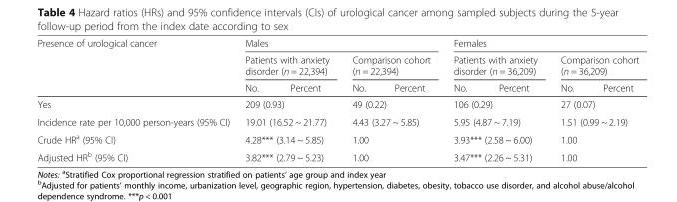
<table><thead><tr><td rowspan="3">Presence of urological cancer</td><td colspan="4">Males</td><td colspan="4">Females</td></tr><tr><td colspan="2">Patients with anxiety disorder (n = 22,394)</td><td colspan="2">Comparison cohort (n = 22,394)</td><td colspan="2">Patients with anxiety disorder (n = 36,209)</td><td colspan="2">Comparison cohort (n = 36,209)</td></tr><tr><td>No.</td><td>Percent</td><td>No.</td><td>Percent</td><td>No.</td><td>Percent</td><td>No.</td><td>Percent</td></tr></thead><tbody><tr><td>Yes</td><td colspan="2">209 (0.93)</td><td colspan="2">49 (0.22)</td><td colspan="2">106 (0.29)</td><td colspan="2">27 (0.07)</td></tr><tr><td>Incidence rate per 10,000 person-years (95% CI)</td><td colspan="2">19.01 (16.52 ~ 21.77)</td><td colspan="2">4.43 (3.27 ~ 5.85)</td><td colspan="2">5.95 (4.87 ~ 7.19)</td><td colspan="2">1.51 (0.99 ~ 2.19)</td></tr><tr><td>Crude HR<sup>a</sup> (95% CI)</td><td colspan="2">4.28*** (3.14 ~ 5.85)</td><td colspan="2">1.00</td><td colspan="2">3.93*** (2.58 ~ 6.00)</td><td colspan="2">1.00</td></tr><tr><td>Adjusted HR<sup>b</sup> (95% CI)</td><td colspan="2">3.82*** (2.79 ~ 5.23)</td><td colspan="2">1.00</td><td colspan="2">3.47*** (2.26 ~ 5.31)</td><td colspan="2">1.00</td></tr></tbody></table>